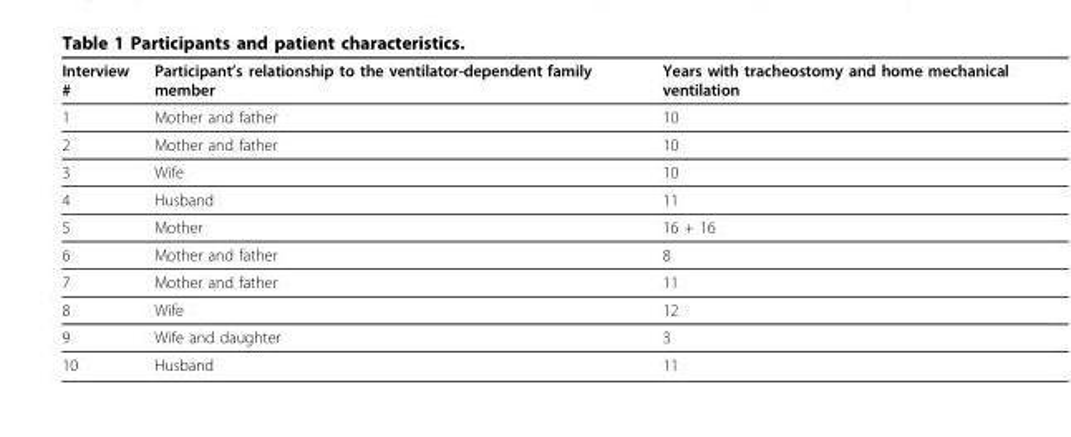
<table><thead><tr><td>Interview #</td><td>Participant’s relationship to the ventilator-dependent family member</td><td>Years with tracheostomy and home mechanical ventilation</td></tr></thead><tbody><tr><td>1</td><td>Mother and father</td><td>10</td></tr><tr><td>2</td><td>Mother and father</td><td>10</td></tr><tr><td>3</td><td>Wife</td><td>10</td></tr><tr><td>4</td><td>Husband</td><td>11</td></tr><tr><td>5</td><td>Mother</td><td>16 + 16</td></tr><tr><td>6</td><td>Mother and father</td><td>8</td></tr><tr><td>7</td><td>Mother and father</td><td>11</td></tr><tr><td>8</td><td>Wife</td><td>12</td></tr><tr><td>9</td><td>Wife and daughter</td><td>3</td></tr><tr><td>10</td><td>Husband</td><td>11</td></tr></tbody></table>